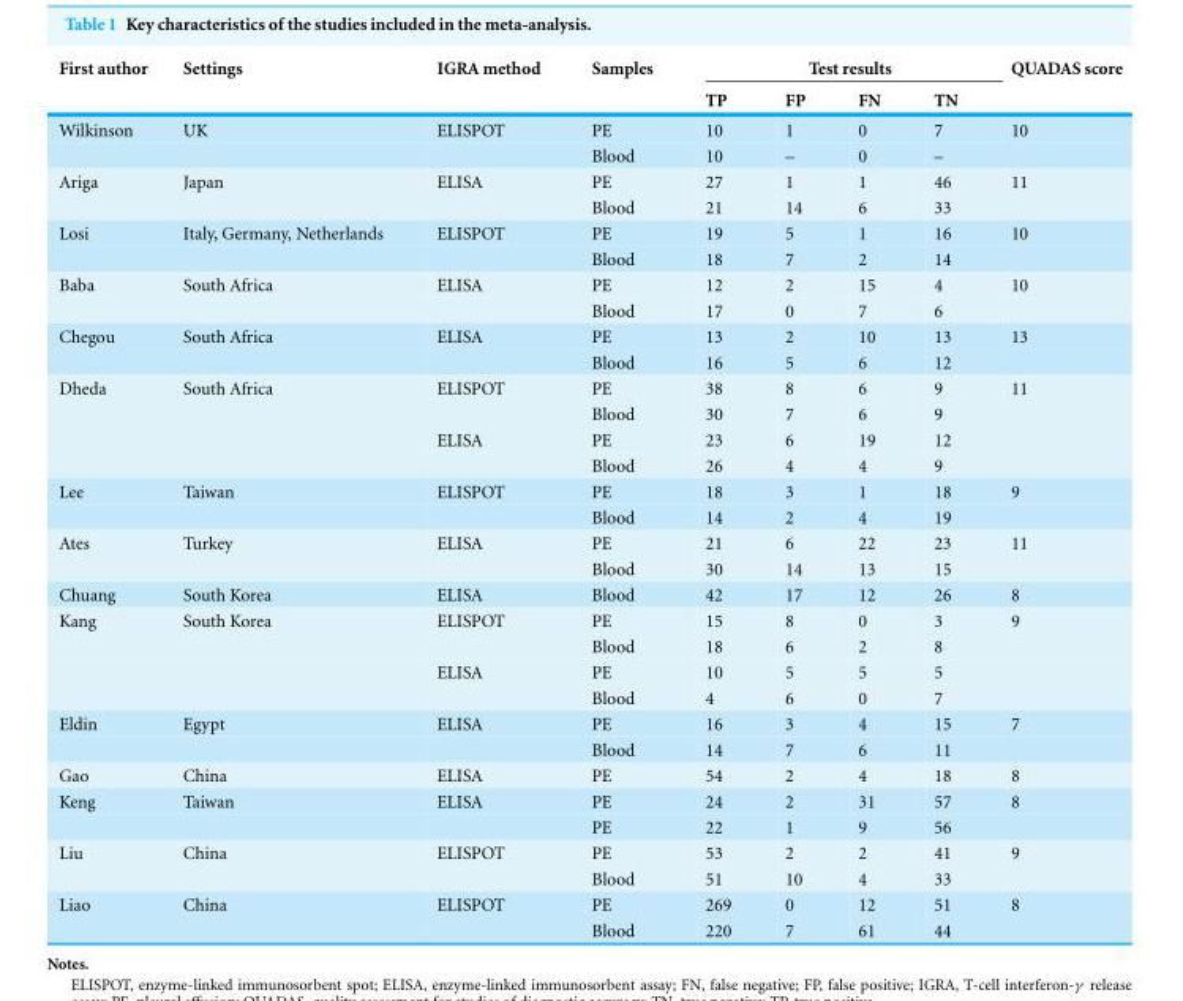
<table><thead><tr><td rowspan="2">First author</td><td rowspan="2">Settings</td><td rowspan="2">IGRA method</td><td rowspan="2">Samples</td><td colspan="4">Test results</td><td rowspan="2">QUADAS score</td></tr><tr><td>TP</td><td>FP</td><td>FN</td><td>TN</td></tr></thead><tbody><tr><td rowspan="2">Wilkinson</td><td>UK</td><td>ELISPOT</td><td>PE</td><td>10</td><td>1</td><td>0</td><td>7</td><td>10</td></tr><tr><td></td><td></td><td>Blood</td><td>10</td><td>–</td><td>0</td><td>–</td><td></td></tr><tr><td rowspan="2">Ariga</td><td>Japan</td><td>ELISA</td><td>PE</td><td>27</td><td>1</td><td>1</td><td>46</td><td>11</td></tr><tr><td></td><td></td><td>Blood</td><td>21</td><td>14</td><td>6</td><td>33</td><td></td></tr><tr><td rowspan="2">Losi</td><td>Italy, Germany, Netherlands</td><td>ELISPOT</td><td>PE</td><td>19</td><td>5</td><td>1</td><td>16</td><td>10</td></tr><tr><td></td><td></td><td>Blood</td><td>18</td><td>7</td><td>2</td><td>14</td><td></td></tr><tr><td rowspan="2">Baba</td><td>South Africa</td><td>ELISA</td><td>PE</td><td>12</td><td>2</td><td>15</td><td>4</td><td>10</td></tr><tr><td></td><td></td><td>Blood</td><td>17</td><td>0</td><td>7</td><td>6</td><td></td></tr><tr><td rowspan="2">Chegou</td><td>South Africa</td><td>ELISA</td><td>PE</td><td>13</td><td>2</td><td>10</td><td>13</td><td>13</td></tr><tr><td></td><td></td><td>Blood</td><td>16</td><td>5</td><td>6</td><td>12</td><td></td></tr><tr><td rowspan="4">Dheda</td><td>South Africa</td><td>ELISPOT</td><td>PE</td><td>38</td><td>8</td><td>6</td><td>9</td><td>11</td></tr><tr><td></td><td></td><td>Blood</td><td>30</td><td>7</td><td>6</td><td>9</td><td></td></tr><tr><td></td><td>ELISA</td><td>PE</td><td>23</td><td>6</td><td>19</td><td>12</td><td></td></tr><tr><td></td><td></td><td>Blood</td><td>26</td><td>4</td><td>4</td><td>9</td><td></td></tr><tr><td rowspan="2">Lee</td><td>Taiwan</td><td>ELISPOT</td><td>PE</td><td>18</td><td>3</td><td>1</td><td>18</td><td>9</td></tr><tr><td></td><td></td><td>Blood</td><td>14</td><td>2</td><td>4</td><td>19</td><td></td></tr><tr><td rowspan="2">Ates</td><td>Turkey</td><td>ELISA</td><td>PE</td><td>21</td><td>6</td><td>22</td><td>23</td><td>11</td></tr><tr><td></td><td></td><td>Blood</td><td>30</td><td>14</td><td>13</td><td>15</td><td></td></tr><tr><td>Chuang</td><td>South Korea</td><td>ELISA</td><td>Blood</td><td>42</td><td>17</td><td>12</td><td>26</td><td>8</td></tr><tr><td rowspan="4">Kang</td><td>South Korea</td><td>ELISPOT</td><td>PE</td><td>15</td><td>8</td><td>0</td><td>3</td><td>9</td></tr><tr><td></td><td></td><td>Blood</td><td>18</td><td>6</td><td>2</td><td>8</td><td></td></tr><tr><td></td><td>ELISA</td><td>PE</td><td>10</td><td>5</td><td>5</td><td>5</td><td></td></tr><tr><td></td><td></td><td>Blood</td><td>4</td><td>6</td><td>0</td><td>7</td><td></td></tr><tr><td rowspan="2">Eldin</td><td>Egypt</td><td>ELISA</td><td>PE</td><td>16</td><td>3</td><td>4</td><td>15</td><td>7</td></tr><tr><td></td><td></td><td>Blood</td><td>14</td><td>7</td><td>6</td><td>11</td><td></td></tr><tr><td>Gao</td><td>China</td><td>ELISA</td><td>PE</td><td>54</td><td>2</td><td>4</td><td>18</td><td>8</td></tr><tr><td rowspan="2">Keng</td><td>Taiwan</td><td>ELISA</td><td>PE</td><td>24</td><td>2</td><td>31</td><td>57</td><td>8</td></tr><tr><td></td><td></td><td>PE</td><td>22</td><td>1</td><td>9</td><td>56</td><td></td></tr><tr><td rowspan="2">Liu</td><td>China</td><td>ELISPOT</td><td>PE</td><td>53</td><td>2</td><td>2</td><td>41</td><td>9</td></tr><tr><td></td><td></td><td>Blood</td><td>51</td><td>10</td><td>4</td><td>33</td><td></td></tr><tr><td rowspan="2">Liao</td><td>China</td><td>ELISPOT</td><td>PE</td><td>269</td><td>0</td><td>12</td><td>51</td><td>8</td></tr><tr><td></td><td></td><td>Blood</td><td>220</td><td>7</td><td>61</td><td>44</td><td></td></tr></tbody></table>